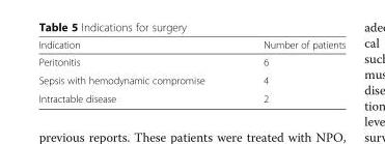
<table><thead><tr><td>Indication</td><td>Number of patients</td></tr></thead><tbody><tr><td>Peritonitis</td><td>6</td></tr><tr><td>Sepsis with hemodynamic compromise</td><td>4</td></tr><tr><td>Intractable disease</td><td>2</td></tr></tbody></table>